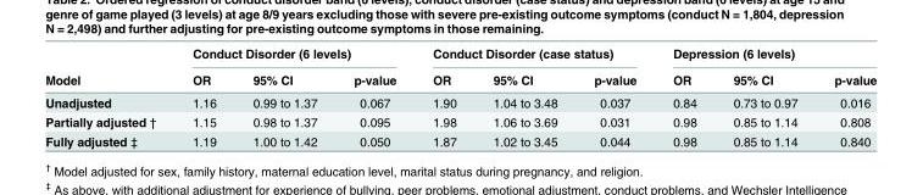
<table><thead><tr><td rowspan="2">Model</td><td colspan="3">Conduct Disorder (6 levels)</td><td colspan="3">Conduct Disorder (case status)</td><td colspan="3">Depression (6 levels)</td></tr><tr><td>OR</td><td>95% CI</td><td>p-value</td><td>OR</td><td>95% CI</td><td>p-value</td><td>OR</td><td>95% CI</td><td>p-value</td></tr></thead><tbody><tr><td>Unadjusted</td><td>1.16</td><td>0.99 to 1.37</td><td>0.067</td><td>1.90</td><td>1.04 to 3.48</td><td>0.037</td><td>0.84</td><td>0.73 to 0.97</td><td>0.016</td></tr><tr><td>Partially adjusted †</td><td>1.15</td><td>0.98 to 1.37</td><td>0.095</td><td>1.98</td><td>1.06 to 3.69</td><td>0.031</td><td>0.98</td><td>0.85 to 1.14</td><td>0.808</td></tr><tr><td>Fully adjusted ‡</td><td>1.19</td><td>1.00 to 1.42</td><td>0.050</td><td>1.87</td><td>1.02 to 3.45</td><td>0.044</td><td>0.98</td><td>0.85 to 1.14</td><td>0.840</td></tr></tbody></table>